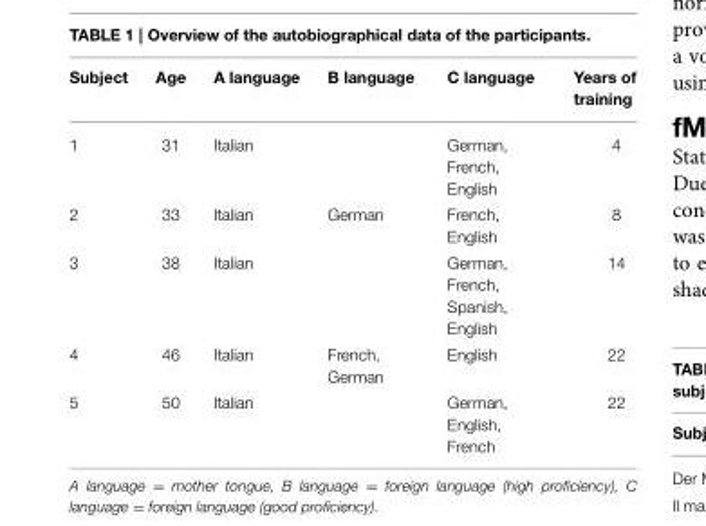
<table><thead><tr><td>Subject</td><td>Age</td><td>A language</td><td>B language</td><td>C language</td><td>Years of training</td></tr></thead><tbody><tr><td>1</td><td>31</td><td>Italian</td><td></td><td>German, French, English</td><td>4</td></tr><tr><td>2</td><td>33</td><td>Italian</td><td>German</td><td>French, English</td><td>8</td></tr><tr><td>3</td><td>38</td><td>Italian</td><td></td><td>German, French, Spanish, English</td><td>14</td></tr><tr><td>4</td><td>46</td><td>Italian</td><td>French, German</td><td>English</td><td>22</td></tr><tr><td>5</td><td>50</td><td>Italian</td><td></td><td>German, English, French</td><td>22</td></tr></tbody></table>